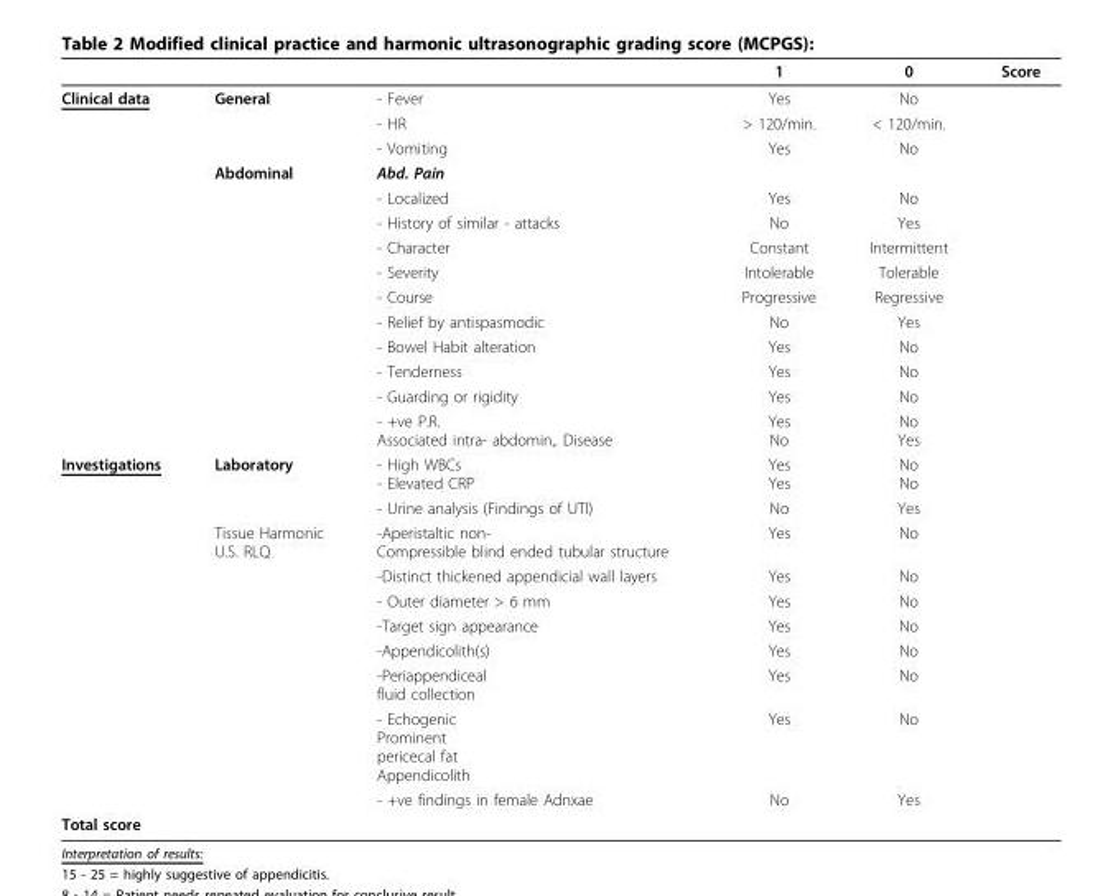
<table><thead><tr><td></td><td></td><td></td><td>1</td><td>0</td><td>Score</td></tr></thead><tbody><tr><td rowspan="14">Clinical data</td><td>General</td><td>- Fever</td><td>Yes</td><td>No</td><td></td></tr><tr><td></td><td>- HR</td><td>&gt; 120/min.</td><td>&lt; 120/min.</td><td></td></tr><tr><td></td><td>- Vomiting</td><td>Yes</td><td>No</td><td></td></tr><tr><td>Abdominal</td><td>Abd. Pain</td><td></td><td></td><td></td></tr><tr><td></td><td>- Localized</td><td>Yes</td><td>No</td><td></td></tr><tr><td></td><td>- History of similar - attacks</td><td>No</td><td>Yes</td><td></td></tr><tr><td></td><td>- Character</td><td>Constant</td><td>Intermittent</td><td></td></tr><tr><td></td><td>- Severity</td><td>Intolerable</td><td>Tolerable</td><td></td></tr><tr><td></td><td>- Course</td><td>Progressive</td><td>Regressive</td><td></td></tr><tr><td></td><td>- Relief by antispasmodic</td><td>No</td><td>Yes</td><td></td></tr><tr><td></td><td>- Bowel Habit alteration</td><td>Yes</td><td>No</td><td></td></tr><tr><td></td><td>- Tenderness</td><td>Yes</td><td>No</td><td></td></tr><tr><td></td><td>- Guarding or rigidity</td><td>Yes</td><td>No</td><td></td></tr><tr><td></td><td>- +ve P.R. Associated intra- abdomin,. Disease</td><td>Yes No</td><td>No Yes</td><td></td></tr><tr><td rowspan="10">Investigations</td><td>Laboratory</td><td>- High WBCs - Elevated CRP</td><td>Yes Yes</td><td>No No</td><td></td></tr><tr><td></td><td>- Urine analysis (Findings of UTI)</td><td>No</td><td>Yes</td><td></td></tr><tr><td>Tissue Harmonic U.S. RLQ</td><td>-Aperistaltic non- Compressible blind ended tubular structure</td><td>Yes</td><td>No</td><td></td></tr><tr><td></td><td>-Distinct thickened appendicial wall layers</td><td>Yes</td><td>No</td><td></td></tr><tr><td></td><td>- Outer diameter &gt; 6 mm</td><td>Yes</td><td>No</td><td></td></tr><tr><td></td><td>-Target sign appearance</td><td>Yes</td><td>No</td><td></td></tr><tr><td></td><td>-Appendicolith(s)</td><td>Yes</td><td>No</td><td></td></tr><tr><td></td><td>-Periappendiceal fluid collection</td><td>Yes</td><td>No</td><td></td></tr><tr><td></td><td>- Echogenic Prominent pericecal fat Appendicolith</td><td>Yes</td><td>No</td><td></td></tr><tr><td></td><td>- +ve findings in female Adnxae</td><td>No</td><td>Yes</td><td></td></tr><tr><td colspan="5">Total score</td><td></td></tr></tbody></table>